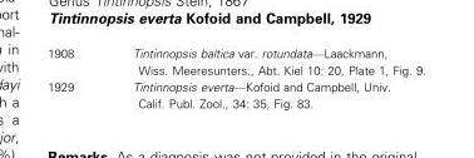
<table><tbody><tr><td>1908</td><td>Tintinnopsis baltica var. rotundata—Laackmann, Wiss. Meeresunters., Abt. Kiel 10: 20, Plate 1, Fig. 9.</td></tr><tr><td>1929</td><td>Tintinnopsis everta—Kofoid and Campbell, Univ. Calif. Publ. Zool., 34: 35, Fig. 83.</td></tr></tbody></table>